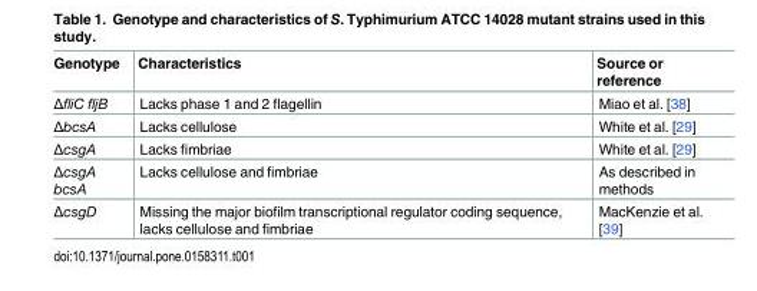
<table><thead><tr><td>Genotype</td><td>Characteristics</td><td>Source or reference</td></tr></thead><tbody><tr><td>ΔfliC fljB</td><td>Lacks phase 1 and 2 flagellin</td><td>Miao et al. [38]</td></tr><tr><td>ΔbcsA</td><td>Lacks cellulose</td><td>White et al. [29]</td></tr><tr><td>ΔcsgA</td><td>Lacks fimbriae</td><td>White et al. [29]</td></tr><tr><td>ΔcsgA bcsA</td><td>Lacks cellulose and fimbriae</td><td>As described in methods</td></tr><tr><td>ΔcsgD</td><td>Missing the major biofilm transcriptional regulator coding sequence, lacks cellulose and fimbriae</td><td>MacKenzie et al. [39]</td></tr></tbody></table>